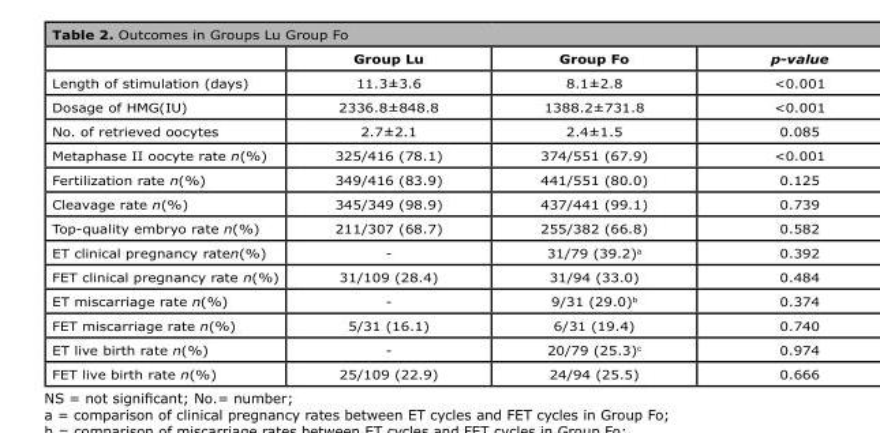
<table><thead><tr><td></td><td>Group Lu</td><td>Group Fo</td><td>p-value</td></tr></thead><tbody><tr><td>Length of stimulation (days)</td><td>11.3±3.6</td><td>8.1±2.8</td><td>&lt;0.001</td></tr><tr><td>Dosage of HMG(IU)</td><td>2336.8±848.8</td><td>1388.2±731.8</td><td>&lt;0.001</td></tr><tr><td>No. of retrieved oocytes</td><td>2.7±2.1</td><td>2.4±1.5</td><td>0.085</td></tr><tr><td>Metaphase II oocyte rate n(%)</td><td>325/416 (78.1)</td><td>374/551 (67.9)</td><td>&lt;0.001</td></tr><tr><td>Fertilization rate n(%)</td><td>349/416 (83.9)</td><td>441/551 (80.0)</td><td>0.125</td></tr><tr><td>Cleavage rate n(%)</td><td>345/349 (98.9)</td><td>437/441 (99.1)</td><td>0.739</td></tr><tr><td>Top-quality embryo rate n(%)</td><td>211/307 (68.7)</td><td>255/382 (66.8)</td><td>0.582</td></tr><tr><td>ET clinical pregnancy raten(%)</td><td>-</td><td>31/79 (39.2)<sup>a</sup></td><td>0.392</td></tr><tr><td>FET clinical pregnancy rate n(%)</td><td>31/109 (28.4)</td><td>31/94 (33.0)</td><td>0.484</td></tr><tr><td>ET miscarriage rate n(%)</td><td>-</td><td>9/31 (29.0)<sup>b</sup></td><td>0.374</td></tr><tr><td>FET miscarriage rate n(%)</td><td>5/31 (16.1)</td><td>6/31 (19.4)</td><td>0.740</td></tr><tr><td>ET live birth rate n(%)</td><td>-</td><td>20/79 (25.3)<sup>c</sup></td><td>0.974</td></tr><tr><td>FET live birth rate n(%)</td><td>25/109 (22.9)</td><td>24/94 (25.5)</td><td>0.666</td></tr></tbody></table>